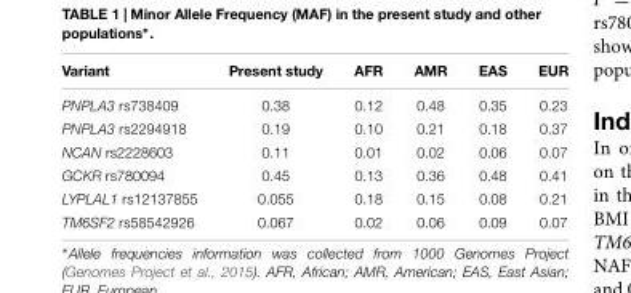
<table><thead><tr><td>Variant</td><td>Present study</td><td>AFR</td><td>AMR</td><td>EAS</td><td>EUR</td></tr></thead><tbody><tr><td>PNPLA3 rs738409</td><td>0.38</td><td>0.12</td><td>0.48</td><td>0.35</td><td>0.23</td></tr><tr><td>PNPLA3 rs2294918</td><td>0.19</td><td>0.10</td><td>0.21</td><td>0.18</td><td>0.37</td></tr><tr><td>NCAN rs2228603</td><td>0.11</td><td>0.01</td><td>0.02</td><td>0.06</td><td>0.07</td></tr><tr><td>GCKR rs780094</td><td>0.45</td><td>0.13</td><td>0.36</td><td>0.48</td><td>0.41</td></tr><tr><td>LYPLAL1 rs12137855</td><td>0.055</td><td>0.18</td><td>0.15</td><td>0.08</td><td>0.21</td></tr><tr><td>TM6SF2 rs58542926</td><td>0.067</td><td>0.02</td><td>0.06</td><td>0.09</td><td>0.07</td></tr></tbody></table>